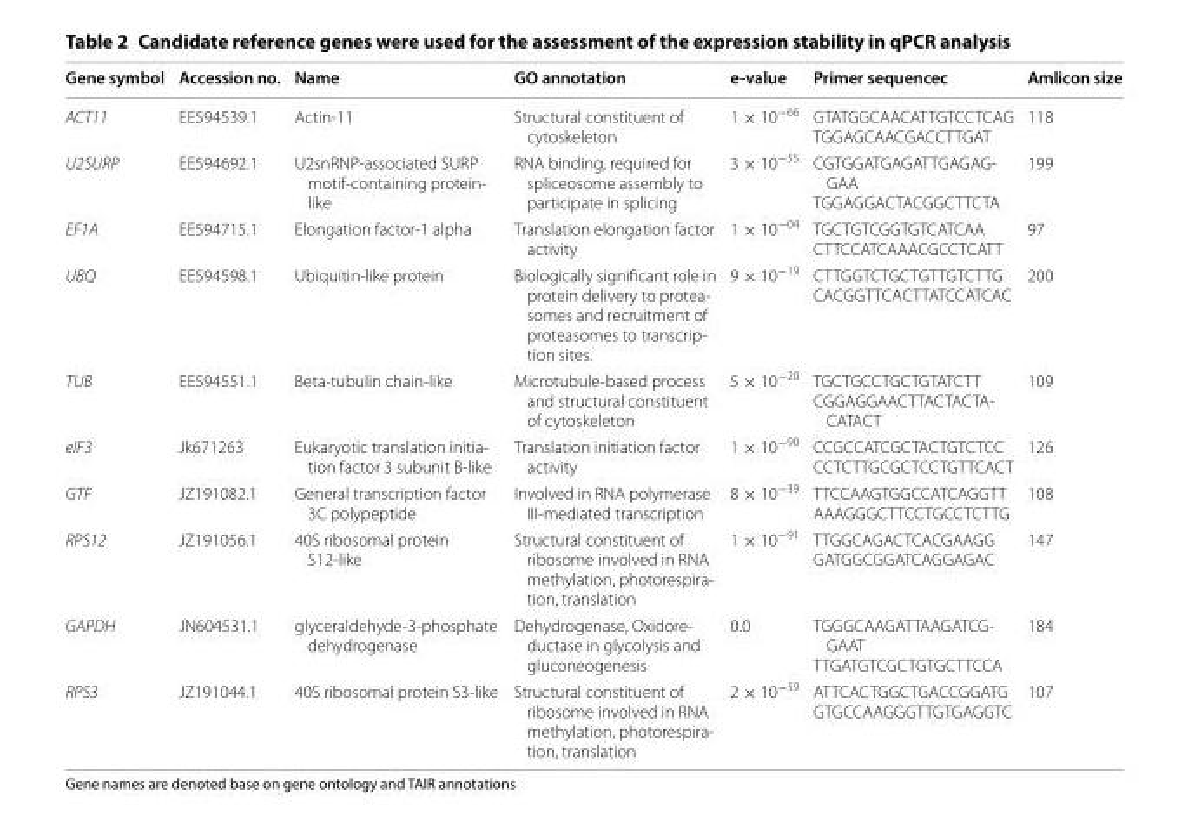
<table><thead><tr><td>Gene symbol</td><td>Accession no.</td><td>Name</td><td>GO annotation</td><td>e-value</td><td>Primer sequencec</td><td>Amlicon size</td></tr></thead><tbody><tr><td>ACT11</td><td>EE594539.1</td><td>Actin-11</td><td>Structural constituent of cytoskeleton</td><td>1 × 10<sup>−66</sup></td><td>GTATGGCAACATTGTCCTCAG TGGAGCAACGACCTTGAT</td><td>118</td></tr><tr><td>U2SURP</td><td>EE594692.1</td><td>U2snRNP-associated SURP motif-containing protein- like</td><td>RNA binding, required for spliceosome assembly to participate in splicing</td><td>3 × 10<sup>−55</sup></td><td>CGTGGATGAGATTGAGAG- GAA TGGAGGACTACGGCTTCTA</td><td>199</td></tr><tr><td>EF1A</td><td>EE594715.1</td><td>Elongation factor-1 alpha</td><td>Translation elongation factor activity</td><td>1 × 10<sup>−04</sup></td><td>TGCTGTCGGTGTCATCAA CTTCCATCAAACGCCTCATT</td><td>97</td></tr><tr><td>UBQ</td><td>EE594598.1</td><td>Ubiquitin-like protein</td><td>Biologically significant role in protein delivery to protea- somes and recruitment of proteasomes to transcrip- tion sites.</td><td>9 × 10<sup>−19</sup></td><td>CTTGGTCTGCTGTTGTCTTG CACGGTTCACTTATCCATCAC</td><td>200</td></tr><tr><td>TUB</td><td>EE594551.1</td><td>Beta-tubulin chain-like</td><td>Microtubule-based process and structural constituent of cytoskeleton</td><td>5 × 10<sup>−20</sup></td><td>TGCTGCCTGCTGTATCTT CGGAGGAACTTACTACTA- CATACT</td><td>109</td></tr><tr><td>eIF3</td><td>Jk671263</td><td>Eukaryotic translation initia- tion factor 3 subunit B-like</td><td>Translation initiation factor activity</td><td>1 × 10<sup>−90</sup></td><td>CCGCCATCGCTACTGTCTCC CCTCTTGCGCTCCTGTTCACT</td><td>126</td></tr><tr><td>GTF</td><td>JZ191082.1</td><td>General transcription factor 3C polypeptide</td><td>Involved in RNA polymerase III-mediated transcription</td><td>8 × 10<sup>−39</sup></td><td>TTCCAAGTGGCCATCAGGTT AAAGGGCTTCCTGCCTCTTG</td><td>108</td></tr><tr><td>RPS12</td><td>JZ191056.1</td><td>40S ribosomal protein S12-like</td><td>Structural constituent of ribosome involved in RNA methylation, photorespira- tion, translation</td><td>1 × 10<sup>−91</sup></td><td>TTGGCAGACTCACGAAGG GATGGCGGATCAGGAGAC</td><td>147</td></tr><tr><td>GAPDH</td><td>JN604531.1</td><td>glyceraldehyde-3-phosphate dehydrogenase</td><td>Dehydrogenase, Oxidore- ductase in glycolysis and gluconeogenesis</td><td>0.0</td><td>TGGGCAAGATTAAGATCG- GAAT TTGATGTCGCTGTGCTTCCA</td><td>184</td></tr><tr><td>RPS3</td><td>JZ191044.1</td><td>40S ribosomal protein S3-like</td><td>Structural constituent of ribosome involved in RNA methylation, photorespira- tion, translation</td><td>2 × 10<sup>−59</sup></td><td>ATTCACTGGCTGACCGGATG GTGCCAAGGGTTGTGAGGTC</td><td>107</td></tr></tbody></table>